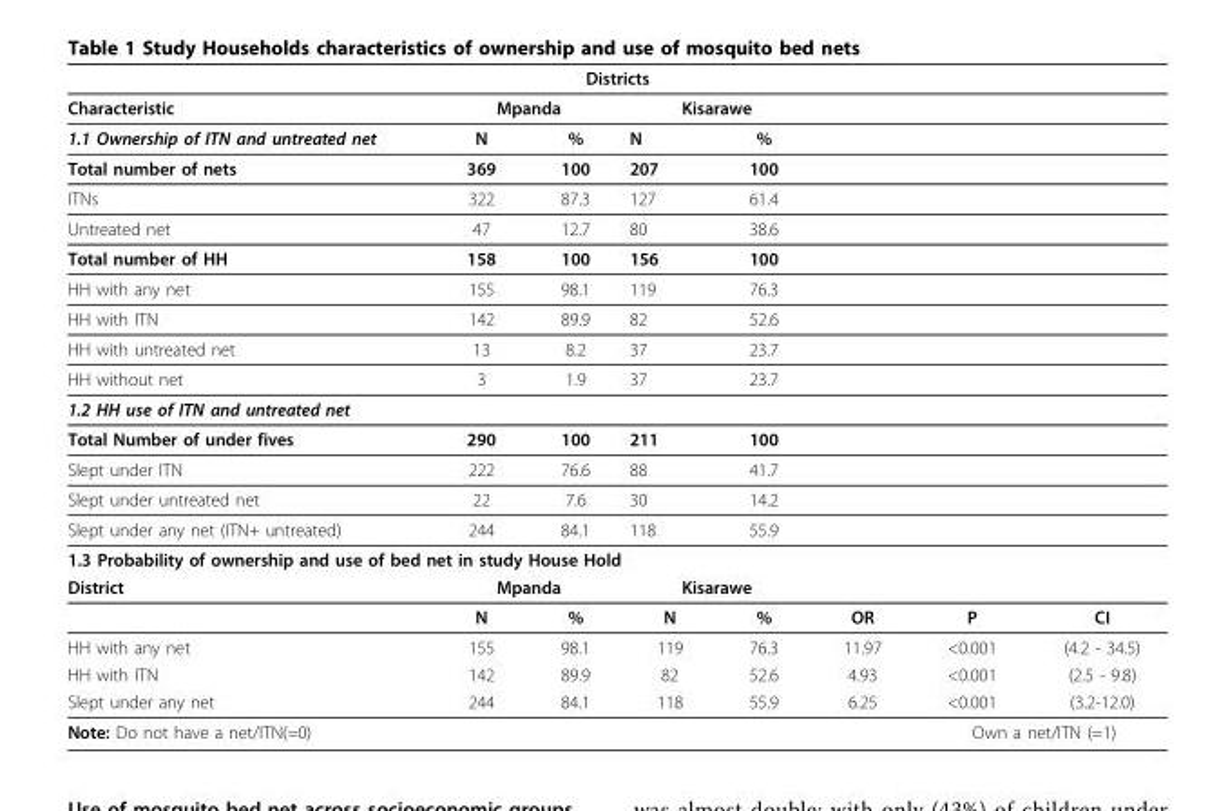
<table><thead><tr><td colspan="8">Districts</td></tr><tr><td rowspan="2">Characteristic 1.1 Ownership of ITN and untreated net</td><td colspan="2">Mpanda</td><td colspan="2">Kisarawe</td><td rowspan="2"></td><td rowspan="2"></td><td rowspan="2"></td></tr><tr><td>N</td><td>%</td><td>N</td><td>%</td></tr></thead><tbody><tr><td>Total number of nets</td><td>369</td><td>100</td><td>207</td><td>100</td><td></td><td></td><td></td></tr><tr><td>ITNs</td><td>322</td><td>87.3</td><td>127</td><td>61.4</td><td></td><td></td><td></td></tr><tr><td>Untreated net</td><td>47</td><td>12.7</td><td>80</td><td>38.6</td><td></td><td></td><td></td></tr><tr><td>Total number of HH</td><td>158</td><td>100</td><td>156</td><td>100</td><td></td><td></td><td></td></tr><tr><td>HH with any net</td><td>155</td><td>98.1</td><td>119</td><td>76.3</td><td></td><td></td><td></td></tr><tr><td>HH with ITN</td><td>142</td><td>89.9</td><td>82</td><td>52.6</td><td></td><td></td><td></td></tr><tr><td>HH with untreated net</td><td>13</td><td>8.2</td><td>37</td><td>23.7</td><td></td><td></td><td></td></tr><tr><td>HH without net</td><td>3</td><td>1.9</td><td>37</td><td>23.7</td><td></td><td></td><td></td></tr><tr><td colspan="8">1.2 HH use of ITN and untreated net</td></tr><tr><td>Total Number of under fives</td><td>290</td><td>100</td><td>211</td><td>100</td><td></td><td></td><td></td></tr><tr><td>Slept under ITN</td><td>222</td><td>76.6</td><td>88</td><td>41.7</td><td></td><td></td><td></td></tr><tr><td>Slept under untreated net</td><td>22</td><td>7.6</td><td>30</td><td>14.2</td><td></td><td></td><td></td></tr><tr><td>Slept under any net (ITN+ untreated)</td><td>244</td><td>84.1</td><td>118</td><td>55.9</td><td></td><td></td><td></td></tr><tr><td colspan="8">1.3 Probability of ownership and use of bed net in study House Hold</td></tr><tr><td rowspan="2">District</td><td colspan="2">Mpanda</td><td colspan="2">Kisarawe</td><td></td><td></td><td></td></tr><tr><td>N</td><td>%</td><td>N</td><td>%</td><td>OR</td><td>P</td><td>CI</td></tr><tr><td>HH with any net</td><td>155</td><td>98.1</td><td>119</td><td>76.3</td><td>11.97</td><td>&lt;0.001</td><td>(4.2 - 34.5)</td></tr><tr><td>HH with ITN</td><td>142</td><td>89.9</td><td>82</td><td>52.6</td><td>4.93</td><td>&lt;0.001</td><td>(2.5 - 9.8)</td></tr><tr><td>Slept under any net</td><td>244</td><td>84.1</td><td>118</td><td>55.9</td><td>6.25</td><td>&lt;0.001</td><td>(3.2-12.0)</td></tr><tr><td colspan="6">Note: Do not have a net/ITN(=0)</td><td colspan="2">Own a net/ITN (=1)</td></tr></tbody></table>